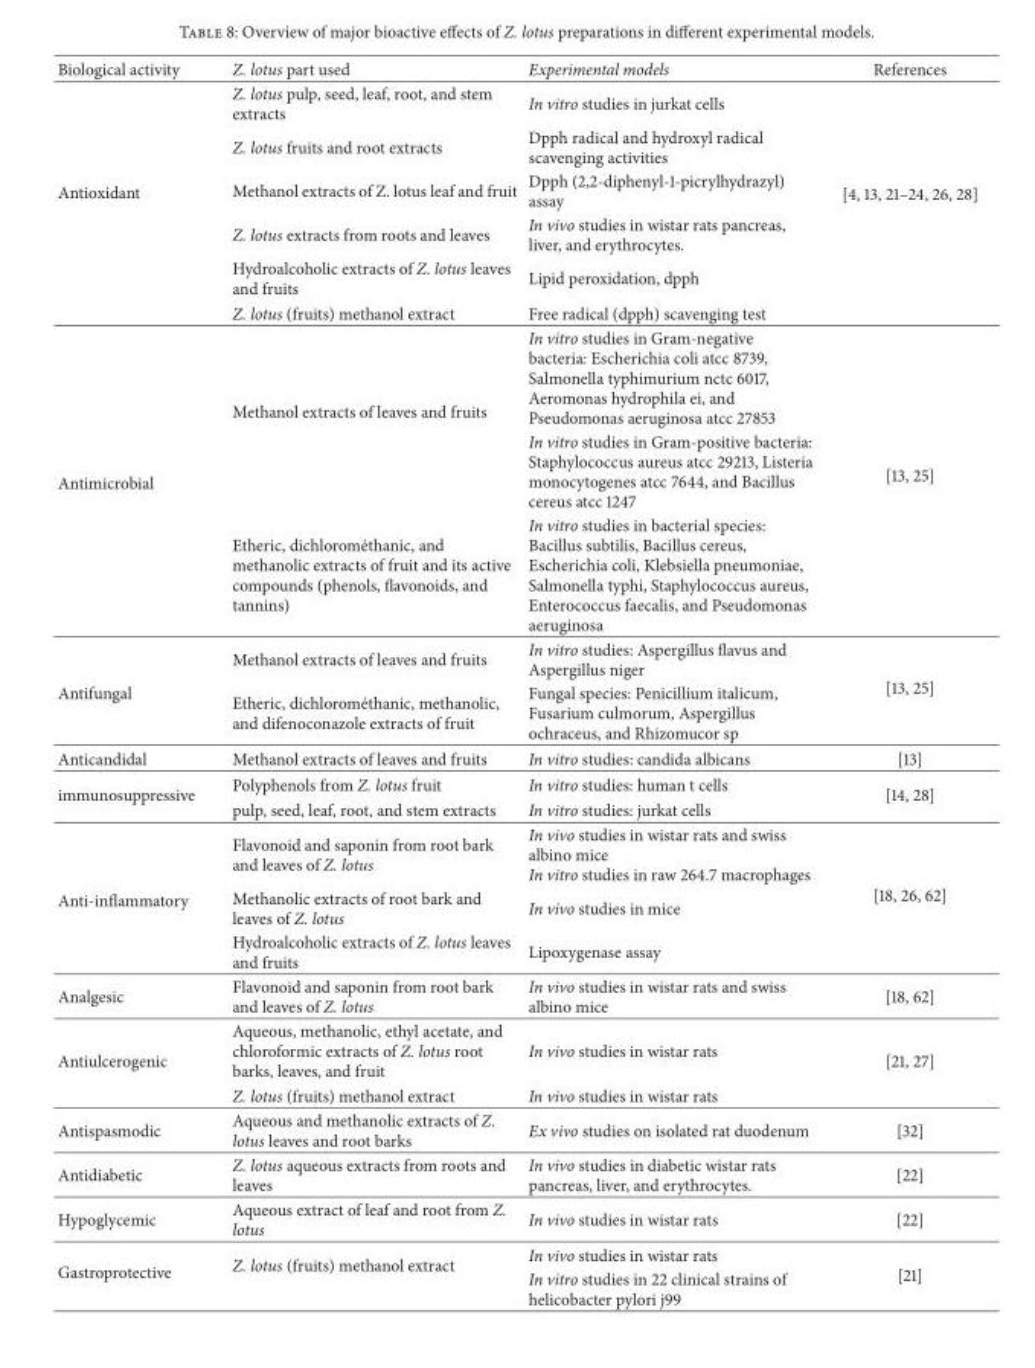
<table><thead><tr><td>Biological activity</td><td>Z. lotus part used</td><td>Experimental models</td><td>References</td></tr></thead><tbody><tr><td rowspan="6">Antioxidant</td><td>Z. lotus pulp, seed, leaf, root, and stem extracts</td><td>In vitro studies in jurkat cells</td><td rowspan="6">[4, 13, 21–24, 26, 28]</td></tr><tr><td>Z. lotus fruits and root extracts</td><td>Dpph radical and hydroxyl radical scavenging activities</td></tr><tr><td>Methanol extracts of Z. lotus leaf and fruit</td><td>Dpph (2,2-diphenyl-1-picrylhydrazyl) assay</td></tr><tr><td>Z. lotus extracts from roots and leaves</td><td>In vivo studies in wistar rats pancreas, liver, and erythrocytes.</td></tr><tr><td>Hydroalcoholic extracts of Z. lotus leaves and fruits</td><td>Lipid peroxidation, dpph</td></tr><tr><td>Z. lotus (fruits) methanol extract</td><td>Free radical (dpph) scavenging test</td></tr><tr><td rowspan="3">Antimicrobial</td><td rowspan="2">Methanol extracts of leaves and fruits</td><td>In vitro studies in Gram-negative bacteria: Escherichia coli atcc 8739, Salmonella typhimurium nctc 6017, Aeromonas hydrophila ei, and Pseudomonas aeruginosa atcc 27853</td><td rowspan="3">[13, 25]</td></tr><tr><td>In vitro studies in Gram-positive bacteria: Staphylococcus aureus atcc 29213, Listeria monocytogenes atcc 7644, and Bacillus cereus atcc 1247</td></tr><tr><td>Etheric, dichlorom´ethanic, and methanolic extracts of fruit and its active compounds (phenols, flavonoids, and tannins)</td><td>In vitro studies in bacterial species: Bacillus subtilis, Bacillus cereus, Escherichia coli, Klebsiella pneumoniae, Salmonella typhi, Staphylococcus aureus, Enterococcus faecalis, and Pseudomonas aeruginosa</td></tr><tr><td rowspan="2">Antifungal</td><td>Methanol extracts of leaves and fruits</td><td>In vitro studies: Aspergillus flavus and Aspergillus niger</td><td rowspan="2">[13, 25]</td></tr><tr><td>Etheric, dichlorom´ethanic, methanolic, and difenoconazole extracts of fruit</td><td>Fungal species: Penicillium italicum, Fusarium culmorum, Aspergillus ochraceus, and Rhizomucor sp</td></tr><tr><td>Anticandidal</td><td>Methanol extracts of leaves and fruits</td><td>In vitro studies: candida albicans</td><td>[13]</td></tr><tr><td rowspan="2">immunosuppressive</td><td>Polyphenols from Z. lotus fruit</td><td>In vitro studies: human t cells</td><td rowspan="2">[14, 28]</td></tr><tr><td>pulp, seed, leaf, root, and stem extracts</td><td>In vitro studies: jurkat cells</td></tr><tr><td rowspan="3">Anti-inflammatory</td><td>Flavonoid and saponin from root bark and leaves of Z. lotus</td><td>In vivo studies in wistar rats and swiss albino mice In vitro studies in raw 264.7 macrophages</td><td rowspan="3">[18, 26, 62]</td></tr><tr><td>Methanolic extracts of root bark and leaves of Z. lotus</td><td>In vivo studies in mice</td></tr><tr><td>Hydroalcoholic extracts of Z. lotus leaves and fruits</td><td>Lipoxygenase assay</td></tr><tr><td>Analgesic</td><td>Flavonoid and saponin from root bark and leaves of Z. lotus</td><td>In vivo studies in wistar rats and swiss albino mice</td><td>[18, 62]</td></tr><tr><td rowspan="2">Antiulcerogenic</td><td>Aqueous, methanolic, ethyl acetate, and chloroformic extracts of Z. lotus root barks, leaves, and fruit</td><td>In vivo studies in wistar rats</td><td rowspan="2">[21, 27]</td></tr><tr><td>Z. lotus (fruits) methanol extract</td><td>In vivo studies in wistar rats</td></tr><tr><td>Antispasmodic</td><td>Aqueous and methanolic extracts of Z. lotus leaves and root barks</td><td>Ex vivo studies on isolated rat duodenum</td><td>[32]</td></tr><tr><td>Antidiabetic</td><td>Z. lotus aqueous extracts from roots and leaves</td><td>In vivo studies in diabetic wistar rats pancreas, liver, and erythrocytes.</td><td>[22]</td></tr><tr><td>Hypoglycemic</td><td>Aqueous extract of leaf and root from Z. lotus</td><td>In vivo studies in wistar rats</td><td>[22]</td></tr><tr><td rowspan="2">Gastroprotective</td><td rowspan="2">Z. lotus (fruits) methanol extract</td><td>In vivo studies in wistar rats</td><td rowspan="2">[21]</td></tr><tr><td>In vitro studies in 22 clinical strains of helicobacter pylori j99</td></tr></tbody></table>